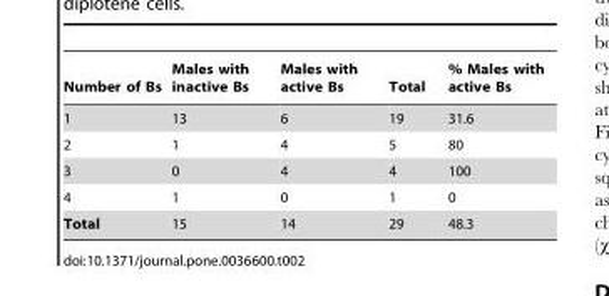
<table><thead><tr><td>Number of Bs</td><td>Males with inactive Bs</td><td>Males with active Bs</td><td>Total</td><td>% Males with active Bs</td></tr></thead><tbody><tr><td>1</td><td>13</td><td>6</td><td>19</td><td>31.6</td></tr><tr><td>2</td><td>1</td><td>4</td><td>5</td><td>80</td></tr><tr><td>3</td><td>0</td><td>4</td><td>4</td><td>100</td></tr><tr><td>4</td><td>1</td><td>0</td><td>1</td><td>0</td></tr><tr><td>Total</td><td>15</td><td>14</td><td>29</td><td>48.3</td></tr></tbody></table>